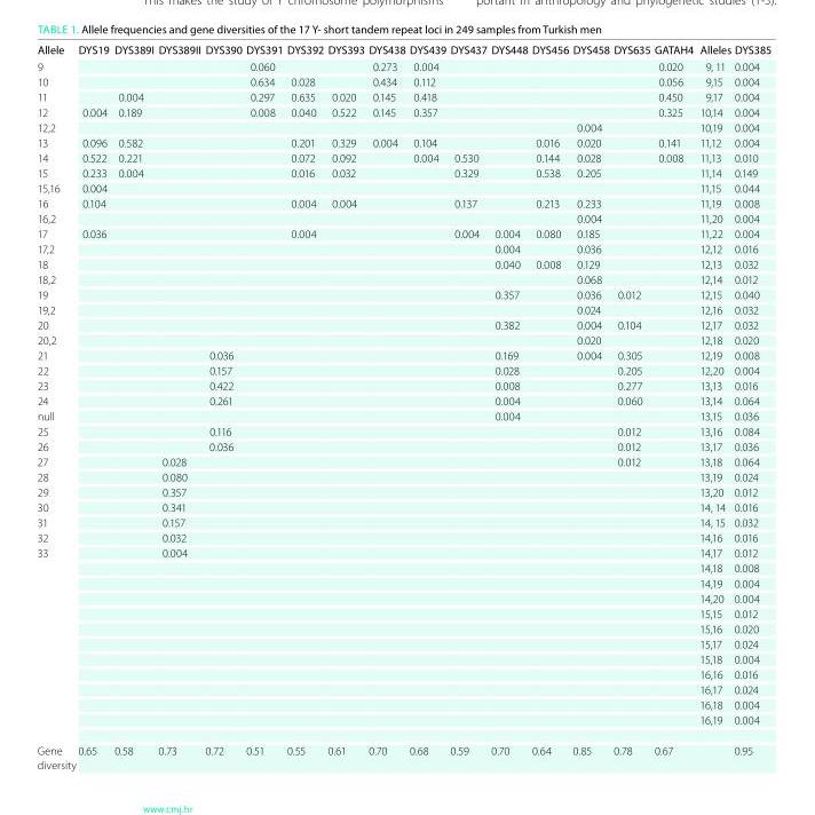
<table><thead><tr><td>Allele</td><td>DYS19</td><td>DYS389I</td><td>DYS389II</td><td>DYS390</td><td>DYS391</td><td>DYS392</td><td>DYS393</td><td>DYS438</td><td>DYS439</td><td>DYS437</td><td>DYS448</td><td>DYS456</td><td>DYS458</td><td>DYS635</td><td>GATAH4</td><td>Alleles</td><td>DYS385</td></tr></thead><tbody><tr><td>9</td><td></td><td></td><td></td><td></td><td>0.060</td><td></td><td></td><td>0.273</td><td>0.004</td><td></td><td></td><td></td><td></td><td></td><td>0.020</td><td>9, 11</td><td>0.004</td></tr><tr><td>10</td><td></td><td></td><td></td><td></td><td>0.634</td><td>0.028</td><td></td><td>0.434</td><td>0.112</td><td></td><td></td><td></td><td></td><td></td><td>0.056</td><td>9,15</td><td>0.004</td></tr><tr><td>11</td><td></td><td>0.004</td><td></td><td></td><td>0.297</td><td>0.635</td><td>0.020</td><td>0.145</td><td>0.418</td><td></td><td></td><td></td><td></td><td></td><td>0.450</td><td>9,17</td><td>0.004</td></tr><tr><td>12</td><td>0.004</td><td>0.189</td><td></td><td></td><td>0.008</td><td>0.040</td><td>0.522</td><td>0.145</td><td>0.357</td><td></td><td></td><td></td><td></td><td></td><td>0.325</td><td>10,14</td><td>0.004</td></tr><tr><td>12,2</td><td></td><td></td><td></td><td></td><td></td><td></td><td></td><td></td><td></td><td></td><td></td><td></td><td>0.004</td><td></td><td></td><td>10,19</td><td>0.004</td></tr><tr><td>13</td><td>0.096</td><td>0.582</td><td></td><td></td><td></td><td>0.201</td><td>0.329</td><td>0.004</td><td>0.104</td><td></td><td></td><td>0.016</td><td>0.020</td><td></td><td>0.141</td><td>11,12</td><td>0.004</td></tr><tr><td>14</td><td>0.522</td><td>0.221</td><td></td><td></td><td></td><td>0.072</td><td>0.092</td><td></td><td>0.004</td><td>0.530</td><td></td><td>0.144</td><td>0.028</td><td></td><td>0.008</td><td>11,13</td><td>0.010</td></tr><tr><td>15</td><td>0.233</td><td>0.004</td><td></td><td></td><td></td><td>0.016</td><td>0.032</td><td></td><td></td><td>0.329</td><td></td><td>0.538</td><td>0.205</td><td></td><td></td><td>11,14</td><td>0.149</td></tr><tr><td>15,16</td><td>0.004</td><td></td><td></td><td></td><td></td><td></td><td></td><td></td><td></td><td></td><td></td><td></td><td></td><td></td><td></td><td>11,15</td><td>0.044</td></tr><tr><td>16</td><td>0.104</td><td></td><td></td><td></td><td></td><td>0.004</td><td>0.004</td><td></td><td></td><td>0.137</td><td></td><td>0.213</td><td>0.233</td><td></td><td></td><td>11,19</td><td>0.008</td></tr><tr><td>16,2</td><td></td><td></td><td></td><td></td><td></td><td></td><td></td><td></td><td></td><td></td><td></td><td></td><td>0.004</td><td></td><td></td><td>11,20</td><td>0.004</td></tr><tr><td>17</td><td>0.036</td><td></td><td></td><td></td><td></td><td>0.004</td><td></td><td></td><td></td><td>0.004</td><td>0.004</td><td>0.080</td><td>0.185</td><td></td><td></td><td>11,22</td><td>0.004</td></tr><tr><td>17,2</td><td></td><td></td><td></td><td></td><td></td><td></td><td></td><td></td><td></td><td></td><td>0.004</td><td></td><td>0.036</td><td></td><td></td><td>12,12</td><td>0.016</td></tr><tr><td>18</td><td></td><td></td><td></td><td></td><td></td><td></td><td></td><td></td><td></td><td></td><td>0.040</td><td>0.008</td><td>0.129</td><td></td><td></td><td>12,13</td><td>0.032</td></tr><tr><td>18,2</td><td></td><td></td><td></td><td></td><td></td><td></td><td></td><td></td><td></td><td></td><td></td><td></td><td>0.068</td><td></td><td></td><td>12,14</td><td>0.012</td></tr><tr><td>19</td><td></td><td></td><td></td><td></td><td></td><td></td><td></td><td></td><td></td><td></td><td>0.357</td><td></td><td>0.036</td><td>0.012</td><td></td><td>12,15</td><td>0.040</td></tr><tr><td>19,2</td><td></td><td></td><td></td><td></td><td></td><td></td><td></td><td></td><td></td><td></td><td></td><td></td><td>0.024</td><td></td><td></td><td>12,16</td><td>0.032</td></tr><tr><td>20</td><td></td><td></td><td></td><td></td><td></td><td></td><td></td><td></td><td></td><td></td><td>0.382</td><td></td><td>0.004</td><td>0.104</td><td></td><td>12,17</td><td>0.032</td></tr><tr><td>20,2</td><td></td><td></td><td></td><td></td><td></td><td></td><td></td><td></td><td></td><td></td><td></td><td></td><td>0.020</td><td></td><td></td><td>12,18</td><td>0.020</td></tr><tr><td>21</td><td></td><td></td><td></td><td>0.036</td><td></td><td></td><td></td><td></td><td></td><td></td><td>0.169</td><td></td><td>0.004</td><td>0.305</td><td></td><td>12,19</td><td>0.008</td></tr><tr><td>22</td><td></td><td></td><td></td><td>0.157</td><td></td><td></td><td></td><td></td><td></td><td></td><td>0.028</td><td></td><td></td><td>0.205</td><td></td><td>12,20</td><td>0.004</td></tr><tr><td>23</td><td></td><td></td><td></td><td>0.422</td><td></td><td></td><td></td><td></td><td></td><td></td><td>0.008</td><td></td><td></td><td>0.277</td><td></td><td>13,13</td><td>0.016</td></tr><tr><td>24</td><td></td><td></td><td></td><td>0.261</td><td></td><td></td><td></td><td></td><td></td><td></td><td>0.004</td><td></td><td></td><td>0.060</td><td></td><td>13,14</td><td>0.064</td></tr><tr><td>null</td><td></td><td></td><td></td><td></td><td></td><td></td><td></td><td></td><td></td><td></td><td>0.004</td><td></td><td></td><td></td><td></td><td>13,15</td><td>0.036</td></tr><tr><td>25</td><td></td><td></td><td></td><td>0.116</td><td></td><td></td><td></td><td></td><td></td><td></td><td></td><td></td><td></td><td>0.012</td><td></td><td>13,16</td><td>0.084</td></tr><tr><td>26</td><td></td><td></td><td></td><td>0.036</td><td></td><td></td><td></td><td></td><td></td><td></td><td></td><td></td><td></td><td>0.012</td><td></td><td>13,17</td><td>0.036</td></tr><tr><td>27</td><td></td><td></td><td>0.028</td><td></td><td></td><td></td><td></td><td></td><td></td><td></td><td></td><td></td><td></td><td>0.012</td><td></td><td>13,18</td><td>0.064</td></tr><tr><td>28</td><td></td><td></td><td>0.080</td><td></td><td></td><td></td><td></td><td></td><td></td><td></td><td></td><td></td><td></td><td></td><td></td><td>13,19</td><td>0.024</td></tr><tr><td>29</td><td></td><td></td><td>0.357</td><td></td><td></td><td></td><td></td><td></td><td></td><td></td><td></td><td></td><td></td><td></td><td></td><td>13,20</td><td>0.012</td></tr><tr><td>30</td><td></td><td></td><td>0.341</td><td></td><td></td><td></td><td></td><td></td><td></td><td></td><td></td><td></td><td></td><td></td><td></td><td>14, 14</td><td>0.016</td></tr><tr><td>31</td><td></td><td></td><td>0.157</td><td></td><td></td><td></td><td></td><td></td><td></td><td></td><td></td><td></td><td></td><td></td><td></td><td>14, 15</td><td>0.032</td></tr><tr><td>32</td><td></td><td></td><td>0.032</td><td></td><td></td><td></td><td></td><td></td><td></td><td></td><td></td><td></td><td></td><td></td><td></td><td>14,16</td><td>0.016</td></tr><tr><td rowspan="12">33</td><td></td><td></td><td>0.004</td><td></td><td></td><td></td><td></td><td></td><td></td><td></td><td></td><td></td><td></td><td></td><td></td><td>14,17</td><td>0.012</td></tr><tr><td></td><td></td><td></td><td></td><td></td><td></td><td></td><td></td><td></td><td></td><td></td><td></td><td></td><td></td><td></td><td>14,18</td><td>0.008</td></tr><tr><td></td><td></td><td></td><td></td><td></td><td></td><td></td><td></td><td></td><td></td><td></td><td></td><td></td><td></td><td></td><td>14,19</td><td>0.004</td></tr><tr><td></td><td></td><td></td><td></td><td></td><td></td><td></td><td></td><td></td><td></td><td></td><td></td><td></td><td></td><td></td><td>14,20</td><td>0.004</td></tr><tr><td></td><td></td><td></td><td></td><td></td><td></td><td></td><td></td><td></td><td></td><td></td><td></td><td></td><td></td><td></td><td>15,15</td><td>0.012</td></tr><tr><td></td><td></td><td></td><td></td><td></td><td></td><td></td><td></td><td></td><td></td><td></td><td></td><td></td><td></td><td></td><td>15,16</td><td>0.020</td></tr><tr><td></td><td></td><td></td><td></td><td></td><td></td><td></td><td></td><td></td><td></td><td></td><td></td><td></td><td></td><td></td><td>15,17</td><td>0.024</td></tr><tr><td></td><td></td><td></td><td></td><td></td><td></td><td></td><td></td><td></td><td></td><td></td><td></td><td></td><td></td><td></td><td>15,18</td><td>0.004</td></tr><tr><td></td><td></td><td></td><td></td><td></td><td></td><td></td><td></td><td></td><td></td><td></td><td></td><td></td><td></td><td></td><td>16,16</td><td>0.016</td></tr><tr><td></td><td></td><td></td><td></td><td></td><td></td><td></td><td></td><td></td><td></td><td></td><td></td><td></td><td></td><td></td><td>16,17</td><td>0.024</td></tr><tr><td></td><td></td><td></td><td></td><td></td><td></td><td></td><td></td><td></td><td></td><td></td><td></td><td></td><td></td><td></td><td>16,18</td><td>0.004</td></tr><tr><td></td><td></td><td></td><td></td><td></td><td></td><td></td><td></td><td></td><td></td><td></td><td></td><td></td><td></td><td></td><td>16,19</td><td>0.004</td></tr><tr><td>Gene diversity</td><td>0.65</td><td>0.58</td><td>0.73</td><td>0.72</td><td>0.51</td><td>0.55</td><td>0.61</td><td>0.70</td><td>0.68</td><td>0.59</td><td>0.70</td><td>0.64</td><td>0.85</td><td>0.78</td><td>0.67</td><td></td><td>0.95</td></tr></tbody></table>